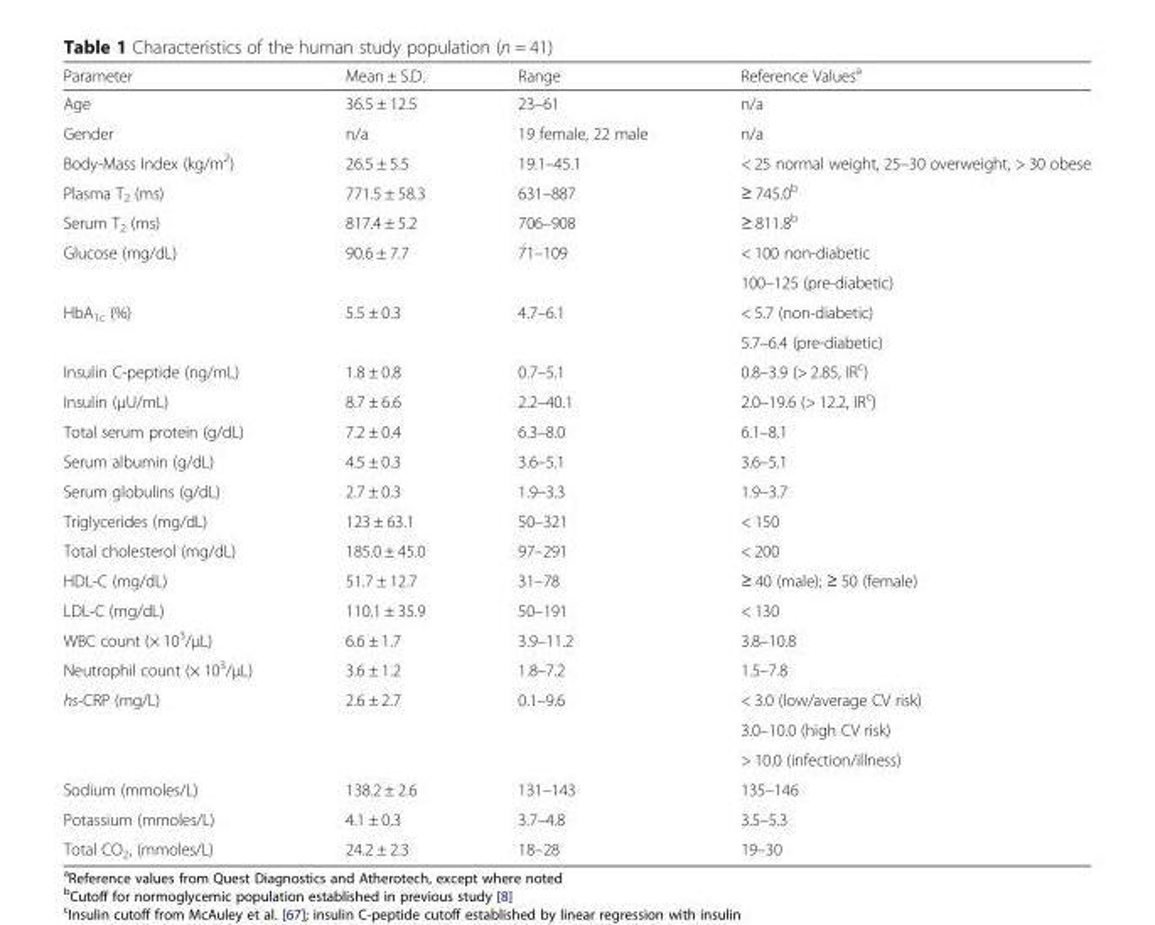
<table><thead><tr><td>Parameter</td><td>Mean ± S.D.</td><td>Range</td><td>Reference Values<sup>a</sup></td></tr></thead><tbody><tr><td>Age</td><td>36.5 ± 12.5</td><td>23–61</td><td>n/a</td></tr><tr><td>Gender</td><td>n/a</td><td>19 female, 22 male</td><td>n/a</td></tr><tr><td>Body-Mass Index (kg/m<sup>2</sup>)</td><td>26.5 ± 5.5</td><td>19.1–45.1</td><td>&lt; 25 normal weight, 25–30 overweight, &gt; 30 obese</td></tr><tr><td>Plasma T<sub>2</sub> (ms)</td><td>771.5 ± 58.3</td><td>631–887</td><td>≥ 745.0<sup>b</sup></td></tr><tr><td>Serum T<sub>2</sub> (ms)</td><td>817.4 ± 5.2</td><td>706–908</td><td>≥ 811.8<sup>b</sup></td></tr><tr><td rowspan="2">Glucose (mg/dL)</td><td rowspan="2">90.6 ± 7.7</td><td rowspan="2">71–109</td><td>&lt; 100 non-diabetic</td></tr><tr><td>100–125 (pre-diabetic)</td></tr><tr><td rowspan="2">HbA<sub>1c</sub> (%)</td><td rowspan="2">5.5 ± 0.3</td><td rowspan="2">4.7–6.1</td><td>&lt; 5.7 (non-diabetic)</td></tr><tr><td>5.7–6.4 (pre-diabetic)</td></tr><tr><td>Insulin C-peptide (ng/mL)</td><td>1.8 ± 0.8</td><td>0.7–5.1</td><td>0.8–3.9 (&gt; 2.85, IR<sup>c</sup>)</td></tr><tr><td>Insulin (μU/mL)</td><td>8.7 ± 6.6</td><td>2.2–40.1</td><td>2.0–19.6 (&gt; 12.2, IR<sup>c</sup>)</td></tr><tr><td>Total serum protein (g/dL)</td><td>7.2 ± 0.4</td><td>6.3–8.0</td><td>6.1–8.1</td></tr><tr><td>Serum albumin (g/dL)</td><td>4.5 ± 0.3</td><td>3.6–5.1</td><td>3.6–5.1</td></tr><tr><td>Serum globulins (g/dL)</td><td>2.7 ± 0.3</td><td>1.9–3.3</td><td>1.9–3.7</td></tr><tr><td>Triglycerides (mg/dL)</td><td>123 ± 63.1</td><td>50–321</td><td>&lt; 150</td></tr><tr><td>Total cholesterol (mg/dL)</td><td>185.0 ± 45.0</td><td>97–291</td><td>&lt; 200</td></tr><tr><td>HDL-C (mg/dL)</td><td>51.7 ± 12.7</td><td>31–78</td><td>≥ 40 (male); ≥ 50 (female)</td></tr><tr><td>LDL-C (mg/dL)</td><td>110.1 ± 35.9</td><td>50–191</td><td>&lt; 130</td></tr><tr><td>WBC count (× 10<sup>3</sup>/μL)</td><td>6.6 ± 1.7</td><td>3.9–11.2</td><td>3.8–10.8</td></tr><tr><td>Neutrophil count (× 10<sup>3</sup>/μL)</td><td>3.6 ± 1.2</td><td>1.8–7.2</td><td>1.5–7.8</td></tr><tr><td rowspan="3">hs-CRP (mg/L)</td><td rowspan="3">2.6 ± 2.7</td><td rowspan="3">0.1–9.6</td><td>&lt; 3.0 (low/average CV risk)</td></tr><tr><td>3.0–10.0 (high CV risk)</td></tr><tr><td>&gt; 10.0 (infection/illness)</td></tr><tr><td>Sodium (mmoles/L)</td><td>138.2 ± 2.6</td><td>131–143</td><td>135–146</td></tr><tr><td>Potassium (mmoles/L)</td><td>4.1 ± 0.3</td><td>3.7–4.8</td><td>3.5–5.3</td></tr><tr><td>Total CO<sub>2</sub>, (mmoles/L)</td><td>24.2 ± 2.3</td><td>18–28</td><td>19–30</td></tr></tbody></table>